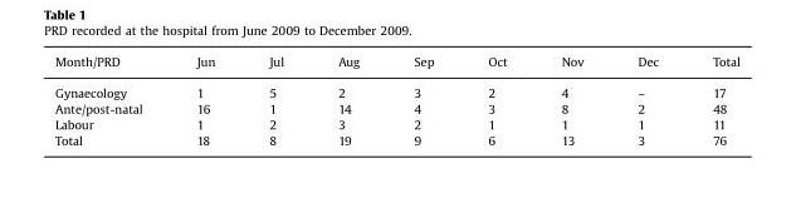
<table><thead><tr><td>Month/PRD</td><td>Jun</td><td>Jul</td><td>Aug</td><td>Sep</td><td>Oct</td><td>Nov</td><td>Dec</td><td>Total</td></tr></thead><tbody><tr><td>Gynaecology</td><td>1</td><td>5</td><td>2</td><td>3</td><td>2</td><td>4</td><td>–</td><td>17</td></tr><tr><td>Ante/post-natal</td><td>16</td><td>1</td><td>14</td><td>4</td><td>3</td><td>8</td><td>2</td><td>48</td></tr><tr><td>Labour</td><td>1</td><td>2</td><td>3</td><td>2</td><td>1</td><td>1</td><td>1</td><td>11</td></tr><tr><td>Total</td><td>18</td><td>8</td><td>19</td><td>9</td><td>6</td><td>13</td><td>3</td><td>76</td></tr></tbody></table>